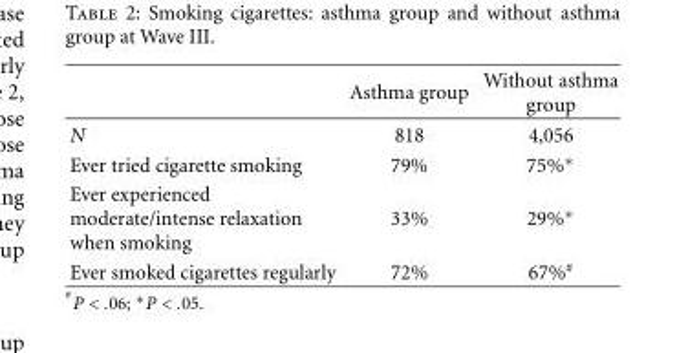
<table><thead><tr><td></td><td>Asthma group</td><td>Without asthma group</td></tr></thead><tbody><tr><td>N</td><td>818</td><td>4,056</td></tr><tr><td>Ever tried cigarette smoking</td><td>79%</td><td>75%∗</td></tr><tr><td>Ever experienced moderate/intense relaxation when smoking</td><td>33%</td><td>29%∗</td></tr><tr><td>Ever smoked cigarettes regularly</td><td>72%</td><td>67%<sup>#</sup></td></tr></tbody></table>